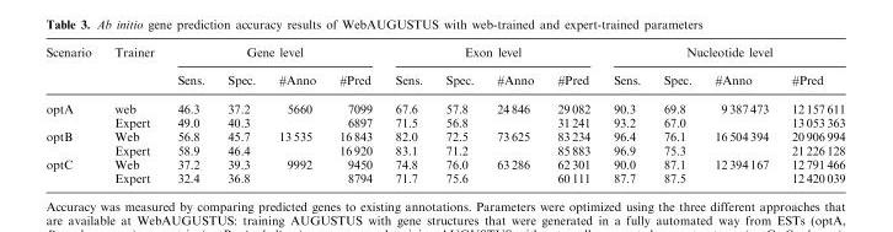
<table><thead><tr><td rowspan="2">Scenario</td><td rowspan="2">Trainer</td><td colspan="4">Gene level</td><td colspan="4">Exon level</td><td colspan="4">Nucleotide level</td></tr><tr><td>Sens.</td><td>Spec.</td><td>#Anno</td><td>#Pred</td><td>Sens.</td><td>Spec.</td><td>#Anno</td><td>#Pred</td><td>Sens.</td><td>Spec.</td><td>#Anno</td><td>#Pred</td></tr></thead><tbody><tr><td rowspan="2">optA</td><td>web</td><td>46.3</td><td>37.2</td><td>5660</td><td>7099</td><td>67.6</td><td>57.8</td><td>24 846</td><td>29 082</td><td>90.3</td><td>69.8</td><td>9 387 473</td><td>12 157 611</td></tr><tr><td>Expert</td><td>49.0</td><td>40.3</td><td></td><td>6897</td><td>71.5</td><td>56.8</td><td></td><td>31 241</td><td>93.2</td><td>67.0</td><td></td><td>13 053 363</td></tr><tr><td rowspan="2">optB</td><td>Web</td><td>56.8</td><td>45.7</td><td>13 535</td><td>16 843</td><td>82.0</td><td>72.5</td><td>73 625</td><td>83 234</td><td>96.4</td><td>76.1</td><td>16 504 394</td><td>20 906 994</td></tr><tr><td>Expert</td><td>58.9</td><td>46.4</td><td></td><td>16 920</td><td>83.1</td><td>71.2</td><td></td><td>85 883</td><td>96.9</td><td>75.3</td><td></td><td>21 226 128</td></tr><tr><td rowspan="2">optC</td><td>Web</td><td>37.2</td><td>39.3</td><td>9992</td><td>9450</td><td>74.8</td><td>76.0</td><td>63 286</td><td>62 301</td><td>90.0</td><td>87.1</td><td>12 394 167</td><td>12 791 466</td></tr><tr><td>Expert</td><td>32.4</td><td>36.8</td><td></td><td>8794</td><td>71.7</td><td>75.6</td><td></td><td>60 111</td><td>87.7</td><td>87.5</td><td></td><td>12 420 039</td></tr></tbody></table>